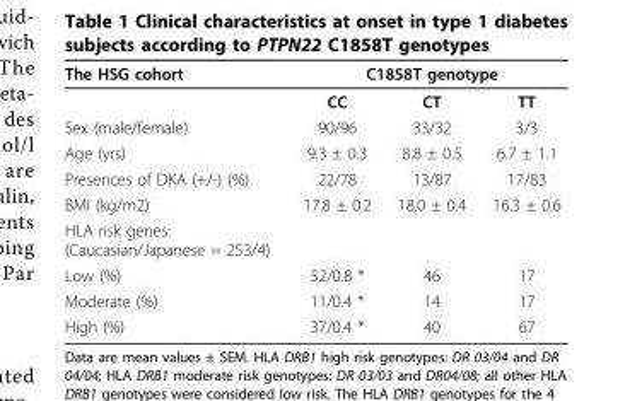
<table><thead><tr><td rowspan="2">The HSG cohort</td><td colspan="3">C1858T genotype</td></tr><tr><td>CC</td><td>CT</td><td>TT</td></tr></thead><tbody><tr><td>Sex (male/female)</td><td>90/96</td><td>33/32</td><td>3/3</td></tr><tr><td>Age (yrs)</td><td>9.3 ± 0.3</td><td>8.8 ± 0.5</td><td>6.7 ± 1.1</td></tr><tr><td>Presences of DKA (+/-) (%)</td><td>22/78</td><td>13/87</td><td>17/83</td></tr><tr><td>BMI (kg/m2)</td><td>17.8 ± 0.2</td><td>18.0 ± 0.4</td><td>16.3 ± 0.6</td></tr><tr><td colspan="4">HLA risk genes: (Caucasian/Japanese = 253/4)</td></tr><tr><td>Low (%)</td><td>52/0.8 *</td><td>46</td><td>17</td></tr><tr><td>Moderate (%)</td><td>11/0.4 *</td><td>14</td><td>17</td></tr><tr><td>High (%)</td><td>37/0.4 *</td><td>40</td><td>67</td></tr></tbody></table>